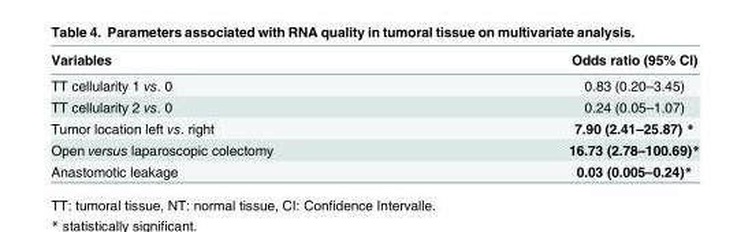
<table><thead><tr><td>Variables</td><td>Odds ratio (95% CI)</td></tr></thead><tbody><tr><td>TT cellularity 1 vs. 0</td><td>0.83 (0.20–3.45)</td></tr><tr><td>TT cellularity 2 vs. 0</td><td>0.24 (0.05–1.07)</td></tr><tr><td>Tumor location left vs. right</td><td>7.90 (2.41–25.87) *</td></tr><tr><td>Open versus laparoscopic colectomy</td><td>16.73 (2.78–100.69)*</td></tr><tr><td>Anastomotic leakage</td><td>0.03 (0.005–0.24)*</td></tr></tbody></table>